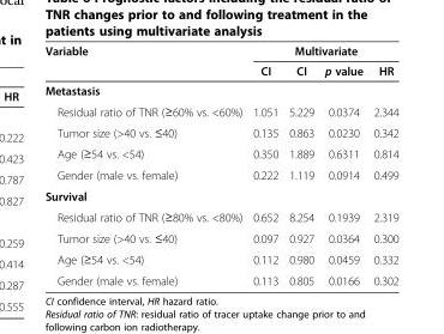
<table><thead><tr><td rowspan="2">Variable</td><td colspan="4">Multivariate</td></tr><tr><td>CI</td><td>CI</td><td>p value</td><td>HR</td></tr></thead><tbody><tr><td colspan="5">Metastasis</td></tr><tr><td>Residual ratio of TNR (≥60% vs. &lt;60%)</td><td>1.051</td><td>5.229</td><td>0.0374</td><td>2.344</td></tr><tr><td>Tumor size (&gt;40 vs. ≤40)</td><td>0.135</td><td>0.863</td><td>0.0230</td><td>0.342</td></tr><tr><td>Age (≥54 vs. &lt;54)</td><td>0.350</td><td>1.889</td><td>0.6311</td><td>0.814</td></tr><tr><td>Gender (male vs. female)</td><td>0.222</td><td>1.119</td><td>0.0914</td><td>0.499</td></tr><tr><td colspan="5">Survival</td></tr><tr><td>Residual ratio of TNR (≥80% vs. &lt;80%)</td><td>0.652</td><td>8.254</td><td>0.1939</td><td>2.319</td></tr><tr><td>Tumor size (&gt;40 vs. ≤40)</td><td>0.097</td><td>0.927</td><td>0.0364</td><td>0.300</td></tr><tr><td>Age (≥54 vs. &lt;54)</td><td>0.112</td><td>0.980</td><td>0.0459</td><td>0.332</td></tr><tr><td>Gender (male vs. female)</td><td>0.113</td><td>0.805</td><td>0.0166</td><td>0.302</td></tr></tbody></table>